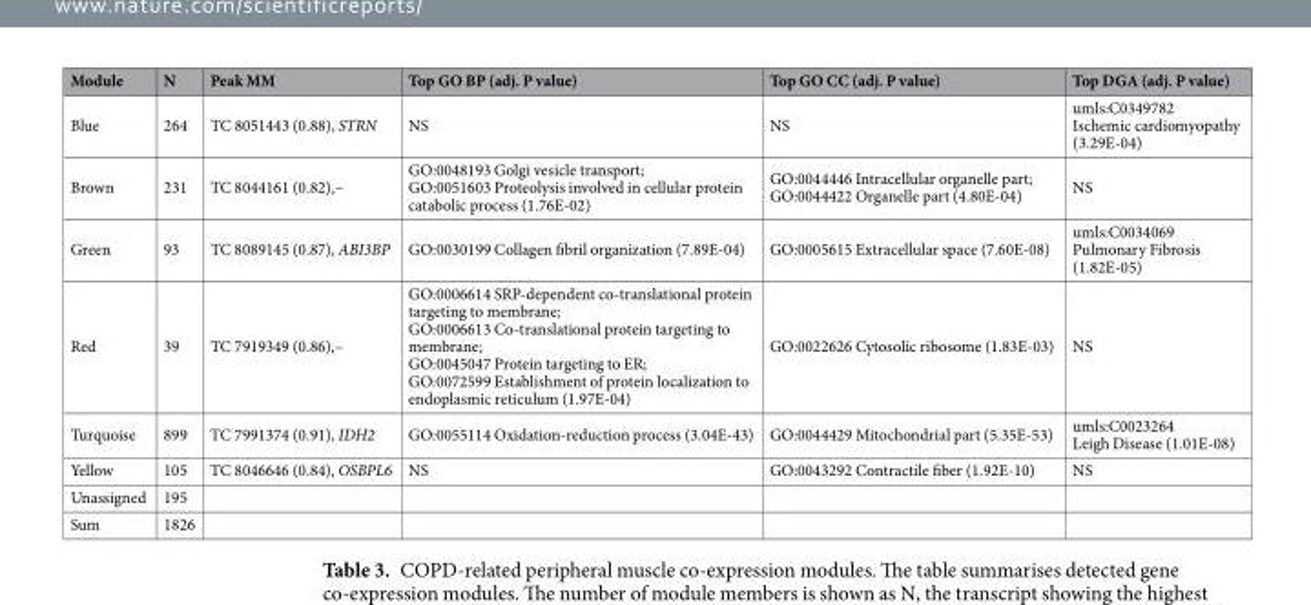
<table><thead><tr><td>Module</td><td>N</td><td>Peak MM</td><td>Top GO BP (adj. P value)</td><td>Top GO CC (adj. P value)</td><td>Top DGA (adj. P value)</td></tr></thead><tbody><tr><td>Blue</td><td>264</td><td>TC 8051443 (0.88), STRN</td><td>NS</td><td>NS</td><td>umls:C0349782 Ischemic cardiomyopathy (3.29E-04)</td></tr><tr><td>Brown</td><td>231</td><td>TC 8044161 (0.82),–</td><td>GO:0048193 Golgi vesicle transport; GO:0051603 Proteolysis involved in cellular protein catabolic process (1.76E-02)</td><td>GO:0044446 Intracellular organelle part; GO:0044422 Organelle part (4.80E-04)</td><td>NS</td></tr><tr><td>Green</td><td>93</td><td>TC 8089145 (0.87), ABI3BP</td><td>GO:0030199 Collagen fibril organization (7.89E-04)</td><td>GO:0005615 Extracellular space (7.60E-08)</td><td>umls:C0034069 Pulmonary Fibrosis (1.82E-05)</td></tr><tr><td>Red</td><td>39</td><td>TC 7919349 (0.86),–</td><td>GO:0006614 SRP-dependent co-translational protein targeting to membrane; GO:0006613 Co-translational protein targeting to membrane; GO:0045047 Protein targeting to ER; GO:0072599 Establishment of protein localization to endoplasmic reticulum (1.97E-04)</td><td>GO:0022626 Cytosolic ribosome (1.83E-03)</td><td>NS</td></tr><tr><td>Turquoise</td><td>899</td><td>TC 7991374 (0.91), IDH2</td><td>GO:0055114 Oxidation-reduction process (3.04E-43)</td><td>GO:0044429 Mitochondrial part (5.35E-53)</td><td>umls:C0023264 Leigh Disease (1.01E-08)</td></tr><tr><td>Yellow</td><td>105</td><td>TC 8046646 (0.84), OSBPL6</td><td>NS</td><td>GO:0043292 Contractile fiber (1.92E-10)</td><td>NS</td></tr><tr><td>Unassigned</td><td>195</td><td></td><td></td><td></td><td></td></tr><tr><td>Sum</td><td>1826</td><td></td><td></td><td></td><td></td></tr></tbody></table>